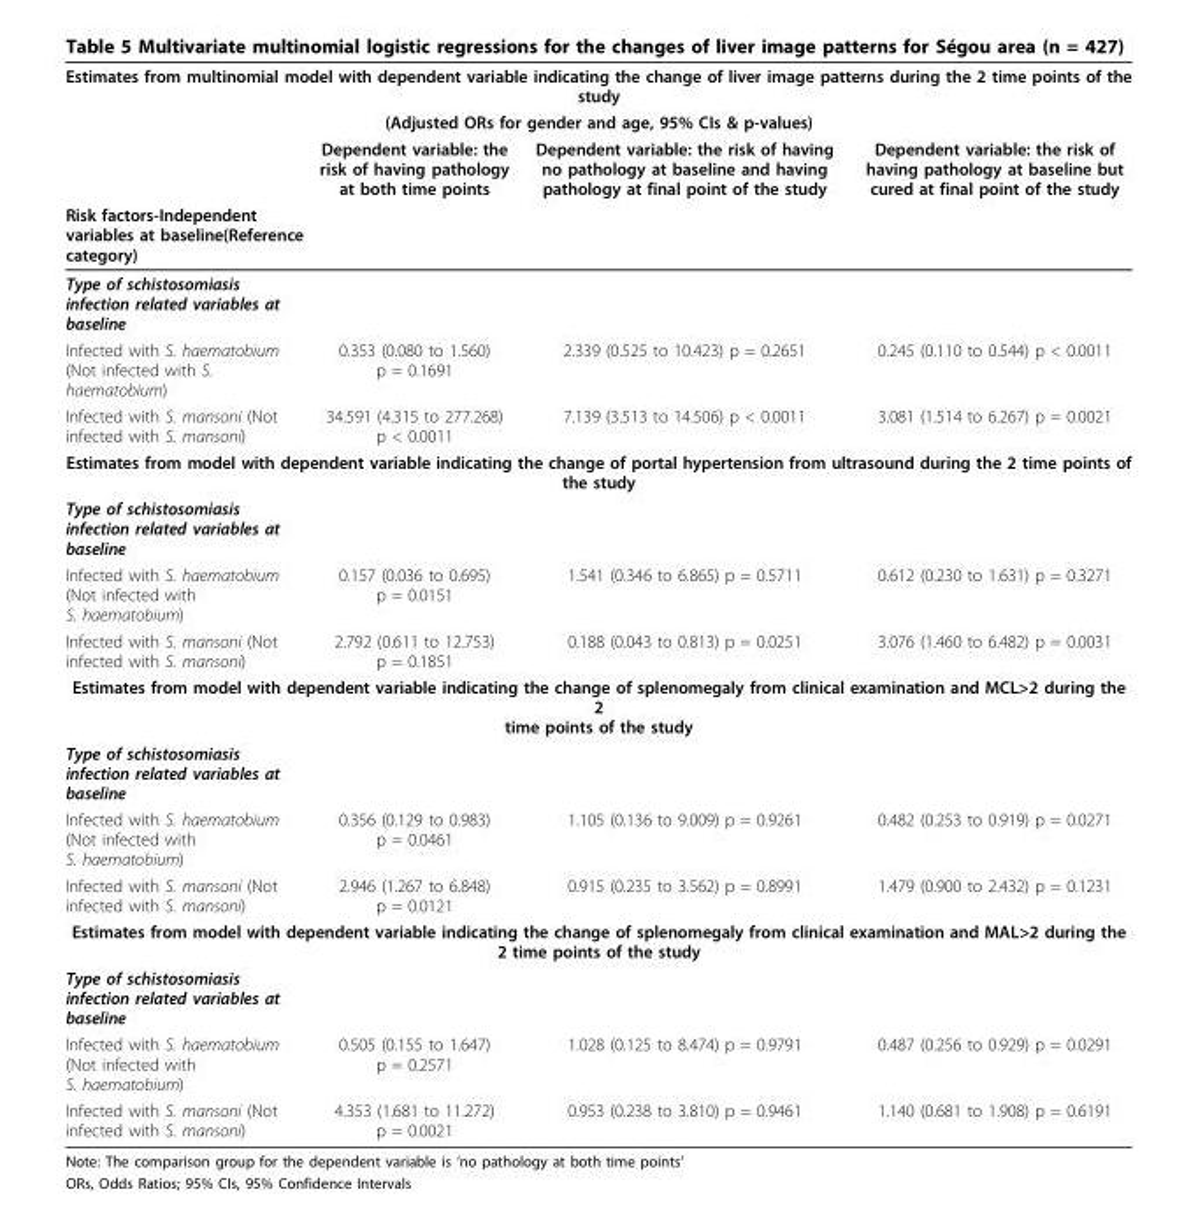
<table><thead><tr><td rowspan="2" colspan="4">Estimates from multinomial model with dependent variable indicating the change of liver image patterns during the 2 time points of the study (Adjusted ORs for gender and age, 95% CIs &amp; p-values)</td></tr><tr></tr><tr><td rowspan="2">Risk factors-Independent variables at baseline(Reference category)</td><td rowspan="2">Dependent variable: the risk of having pathology at both time points</td><td rowspan="2">Dependent variable: the risk of having no pathology at baseline and having pathology at final point of the study</td><td rowspan="2">Dependent variable: the risk of having pathology at baseline but cured at final point of the study</td></tr><tr></tr></thead><tbody><tr><td colspan="4">Type of schistosomiasis infection related variables at baseline</td></tr><tr><td>Infected with S. haematobium (Not infected with S. haematobium)</td><td>0.353 (0.080 to 1.560) p = 0.1691</td><td>2.339 (0.525 to 10.423) p = 0.2651</td><td>0.245 (0.110 to 0.544) p &lt; 0.0011</td></tr><tr><td>Infected with S. mansoni (Not infected with S. mansoni)</td><td>34.591 (4.315 to 277.268) p &lt; 0.0011</td><td>7.139 (3.513 to 14.506) p &lt; 0.0011</td><td>3.081 (1.514 to 6.267) p = 0.0021</td></tr><tr><td colspan="4">Estimates from model with dependent variable indicating the change of portal hypertension from ultrasound during the 2 time points of the study</td></tr><tr><td colspan="4">Type of schistosomiasis infection related variables at baseline</td></tr><tr><td>Infected with S. haematobium (Not infected with S. haematobium)</td><td>0.157 (0.036 to 0.695) p = 0.0151</td><td>1.541 (0.346 to 6.865) p = 0.5711</td><td>0.612 (0.230 to 1.631) p = 0.3271</td></tr><tr><td>Infected with S. mansoni (Not infected with S. mansoni)</td><td>2.792 (0.611 to 12.753) p = 0.1851</td><td>0.188 (0.043 to 0.813) p = 0.0251</td><td>3.076 (1.460 to 6.482) p = 0.0031</td></tr><tr><td colspan="4">Estimates from model with dependent variable indicating the change of splenomegaly from clinical examination and MCL&gt;2 during the 2 time points of the study</td></tr><tr><td colspan="4">Type of schistosomiasis infection related variables at baseline</td></tr><tr><td>Infected with S. haematobium (Not infected with S. haematobium)</td><td>0.356 (0.129 to 0.983) p = 0.0461</td><td>1.105 (0.136 to 9.009) p = 0.9261</td><td>0.482 (0.253 to 0.919) p = 0.0271</td></tr><tr><td>Infected with S. mansoni (Not infected with S. mansoni)</td><td>2.946 (1.267 to 6.848) p = 0.0121</td><td>0.915 (0.235 to 3.562) p = 0.8991</td><td>1.479 (0.900 to 2.432) p = 0.1231</td></tr><tr><td colspan="4">Estimates from model with dependent variable indicating the change of splenomegaly from clinical examination and MAL&gt;2 during the 2 time points of the study</td></tr><tr><td colspan="4">Type of schistosomiasis infection related variables at baseline</td></tr><tr><td>Infected with S. haematobium (Not infected with S. haematobium)</td><td>0.505 (0.155 to 1.647) p = 0.2571</td><td>1.028 (0.125 to 8.474) p = 0.9791</td><td>0.487 (0.256 to 0.929) p = 0.0291</td></tr><tr><td>Infected with S. mansoni (Not infected with S. mansoni)</td><td>4.353 (1.681 to 11.272) p = 0.0021</td><td>0.953 (0.238 to 3.810) p = 0.9461</td><td>1.140 (0.681 to 1.908) p = 0.6191</td></tr></tbody></table>